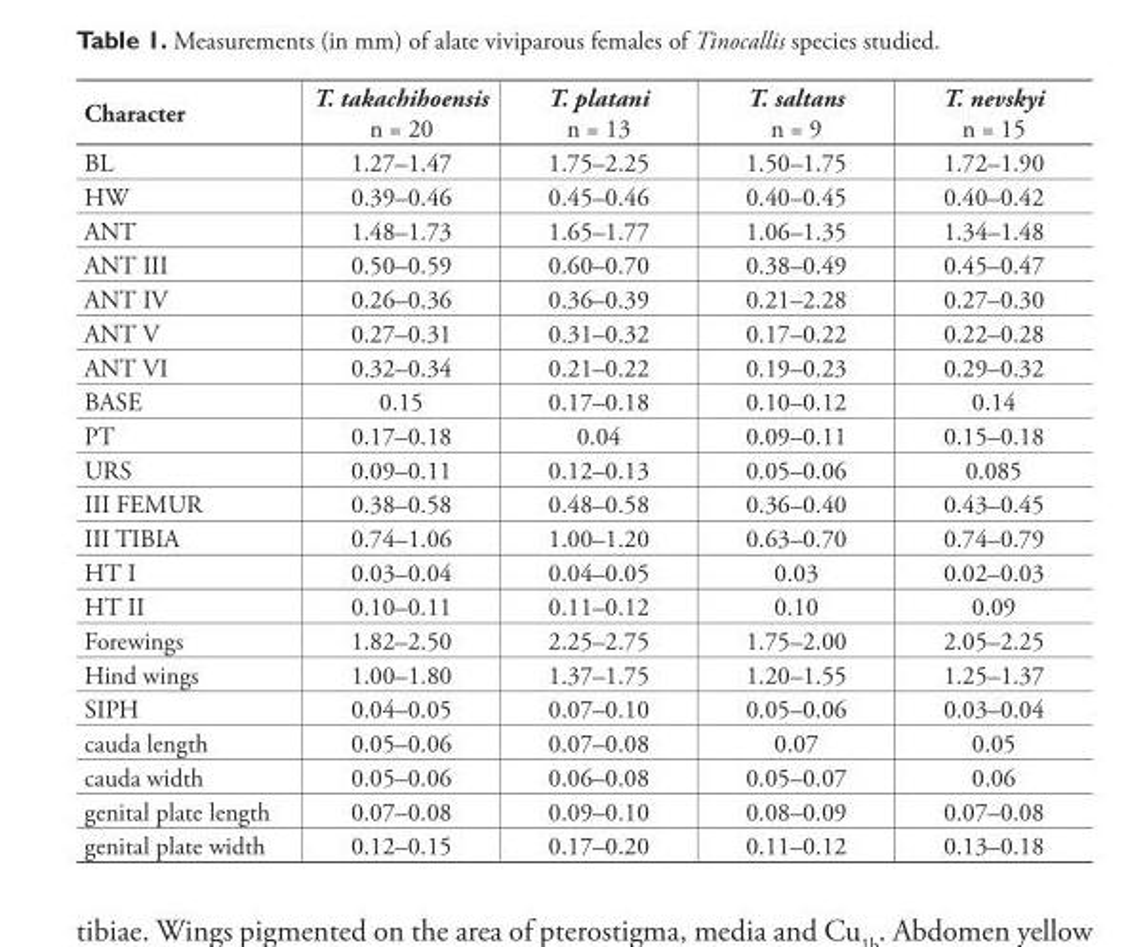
<table><thead><tr><td>Character</td><td>T. takachihoensis n = 20</td><td>T. platani n = 13</td><td>T. saltans n = 9</td><td>T. nevskyi n = 15</td></tr></thead><tbody><tr><td>BL</td><td>1.27–1.47</td><td>1.75–2.25</td><td>1.50–1.75</td><td>1.72–1.90</td></tr><tr><td>HW</td><td>0.39–0.46</td><td>0.45–0.46</td><td>0.40–0.45</td><td>0.40–0.42</td></tr><tr><td>ANT</td><td>1.48–1.73</td><td>1.65–1.77</td><td>1.06–1.35</td><td>1.34–1.48</td></tr><tr><td>ANT III</td><td>0.50–0.59</td><td>0.60–0.70</td><td>0.38–0.49</td><td>0.45–0.47</td></tr><tr><td>ANT IV</td><td>0.26–0.36</td><td>0.36–0.39</td><td>0.21–2.28</td><td>0.27–0.30</td></tr><tr><td>ANT V</td><td>0.27–0.31</td><td>0.31–0.32</td><td>0.17–0.22</td><td>0.22–0.28</td></tr><tr><td>ANT VI</td><td>0.32–0.34</td><td>0.21–0.22</td><td>0.19–0.23</td><td>0.29–0.32</td></tr><tr><td>BASE</td><td>0.15</td><td>0.17–0.18</td><td>0.10–0.12</td><td>0.14</td></tr><tr><td>PT</td><td>0.17–0.18</td><td>0.04</td><td>0.09–0.11</td><td>0.15–0.18</td></tr><tr><td>URS</td><td>0.09–0.11</td><td>0.12–0.13</td><td>0.05–0.06</td><td>0.085</td></tr><tr><td>III FEMUR</td><td>0.38–0.58</td><td>0.48–0.58</td><td>0.36–0.40</td><td>0.43–0.45</td></tr><tr><td>III TIBIA</td><td>0.74–1.06</td><td>1.00–1.20</td><td>0.63–0.70</td><td>0.74–0.79</td></tr><tr><td>HT I</td><td>0.03–0.04</td><td>0.04–0.05</td><td>0.03</td><td>0.02–0.03</td></tr><tr><td>HT II</td><td>0.10–0.11</td><td>0.11–0.12</td><td>0.10</td><td>0.09</td></tr><tr><td>Forewings</td><td>1.82–2.50</td><td>2.25–2.75</td><td>1.75–2.00</td><td>2.05–2.25</td></tr><tr><td>Hind wings</td><td>1.00–1.80</td><td>1.37–1.75</td><td>1.20–1.55</td><td>1.25–1.37</td></tr><tr><td>SIPH</td><td>0.04–0.05</td><td>0.07–0.10</td><td>0.05–0.06</td><td>0.03–0.04</td></tr><tr><td>cauda length</td><td>0.05–0.06</td><td>0.07–0.08</td><td>0.07</td><td>0.05</td></tr><tr><td>cauda width</td><td>0.05–0.06</td><td>0.06–0.08</td><td>0.05–0.07</td><td>0.06</td></tr><tr><td>genital plate length</td><td>0.07–0.08</td><td>0.09–0.10</td><td>0.08–0.09</td><td>0.07–0.08</td></tr><tr><td>genital plate width</td><td>0.12–0.15</td><td>0.17–0.20</td><td>0.11–0.12</td><td>0.13–0.18</td></tr></tbody></table>